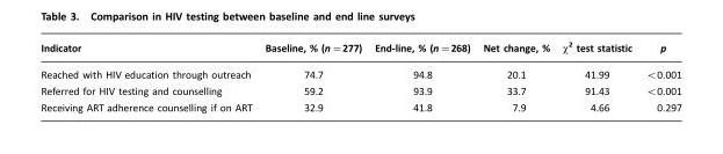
<table><thead><tr><td>Indicator</td><td>Baseline, % (n=277)</td><td>End-line, % (n=268)</td><td>Net change, %</td><td>χ<sup>2</sup> test statistic</td><td>p</td></tr></thead><tbody><tr><td>Reached with HIV education through outreach</td><td>74.7</td><td>94.8</td><td>20.1</td><td>41.99</td><td>&lt;0.001</td></tr><tr><td>Referred for HIV testing and counselling</td><td>59.2</td><td>93.9</td><td>33.7</td><td>91.43</td><td>&lt;0.001</td></tr><tr><td>Receiving ART adherence counselling if on ART</td><td>32.9</td><td>41.8</td><td>7.9</td><td>4.66</td><td>0.297</td></tr></tbody></table>